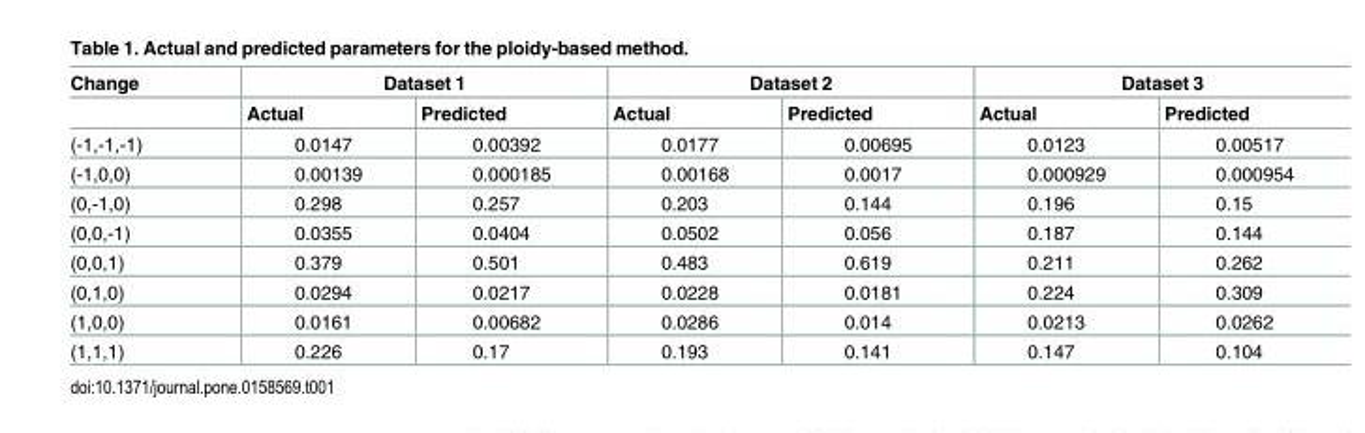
<table><thead><tr><td rowspan="2">Change</td><td colspan="2">Dataset 1</td><td colspan="2">Dataset 2</td><td colspan="2">Dataset 3</td></tr><tr><td>Actual</td><td>Predicted</td><td>Actual</td><td>Predicted</td><td>Actual</td><td>Predicted</td></tr></thead><tbody><tr><td>(-1,-1,-1)</td><td>0.0147</td><td>0.00392</td><td>0.0177</td><td>0.00695</td><td>0.0123</td><td>0.00517</td></tr><tr><td>(-1,0,0)</td><td>0.00139</td><td>0.000185</td><td>0.00168</td><td>0.0017</td><td>0.000929</td><td>0.000954</td></tr><tr><td>(0,-1,0)</td><td>0.298</td><td>0.257</td><td>0.203</td><td>0.144</td><td>0.196</td><td>0.15</td></tr><tr><td>(0,0,-1)</td><td>0.0355</td><td>0.0404</td><td>0.0502</td><td>0.056</td><td>0.187</td><td>0.144</td></tr><tr><td>(0,0,1)</td><td>0.379</td><td>0.501</td><td>0.483</td><td>0.619</td><td>0.211</td><td>0.262</td></tr><tr><td>(0,1,0)</td><td>0.0294</td><td>0.0217</td><td>0.0228</td><td>0.0181</td><td>0.224</td><td>0.309</td></tr><tr><td>(1,0,0)</td><td>0.0161</td><td>0.00682</td><td>0.0286</td><td>0.014</td><td>0.0213</td><td>0.0262</td></tr><tr><td>(1,1,1)</td><td>0.226</td><td>0.17</td><td>0.193</td><td>0.141</td><td>0.147</td><td>0.104</td></tr></tbody></table>